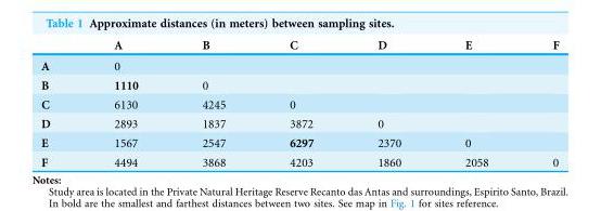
<table><thead><tr><td></td><td>A</td><td>B</td><td>C</td><td>D</td><td>E</td><td>F</td></tr></thead><tbody><tr><td>A</td><td>0</td><td></td><td></td><td></td><td></td><td></td></tr><tr><td>B</td><td>1110</td><td>0</td><td></td><td></td><td></td><td></td></tr><tr><td>C</td><td>6130</td><td>4245</td><td>0</td><td></td><td></td><td></td></tr><tr><td>D</td><td>2893</td><td>1837</td><td>3872</td><td>0</td><td></td><td></td></tr><tr><td>E</td><td>1567</td><td>2547</td><td>6297</td><td>2370</td><td>0</td><td></td></tr><tr><td>F</td><td>4494</td><td>3868</td><td>4203</td><td>1860</td><td>2058</td><td>0</td></tr></tbody></table>